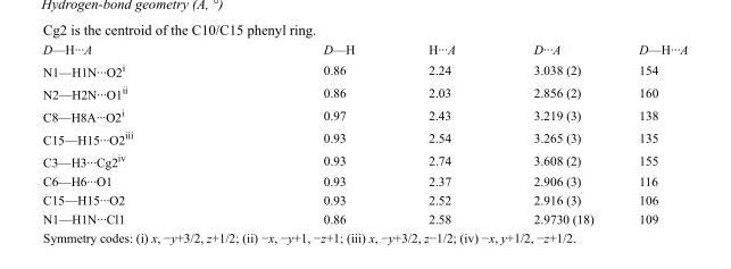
<table><tbody><tr><td>D—H···A</td><td>D—H</td><td>H···A</td><td>D···A</td><td>D—H···A</td></tr><tr><td>N1—H1N···O2<sup>i</sup></td><td>0.86</td><td>2.24</td><td>3.038 (2)</td><td>154</td></tr><tr><td>N2—H2N···O1<sup>ii</sup></td><td>0.86</td><td>2.03</td><td>2.856 (2)</td><td>160</td></tr><tr><td>C8—H8A···O2<sup>i</sup></td><td>0.97</td><td>2.43</td><td>3.219 (3)</td><td>138</td></tr><tr><td>C15—H15···O2<sup>iii</sup></td><td>0.93</td><td>2.54</td><td>3.265 (3)</td><td>135</td></tr><tr><td>C3—H3···Cg2<sup>iv</sup></td><td>0.93</td><td>2.74</td><td>3.608 (2)</td><td>155</td></tr><tr><td>C6—H6···O1</td><td>0.93</td><td>2.37</td><td>2.906 (3)</td><td>116</td></tr><tr><td>C15—H15···O2</td><td>0.93</td><td>2.52</td><td>2.916 (3)</td><td>106</td></tr><tr><td>N1—H1N···Cl1</td><td>0.86</td><td>2.58</td><td>2.9730 (18)</td><td>109</td></tr></tbody></table>